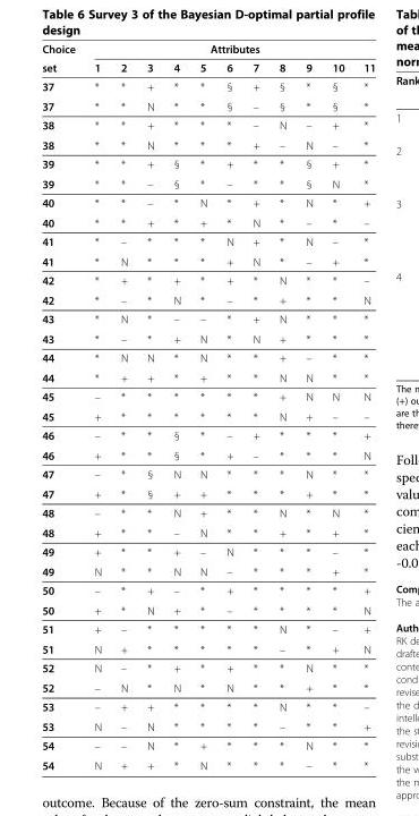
<table><thead><tr><td rowspan="2">Choice set</td><td colspan="11">Attributes</td></tr><tr><td>1</td><td>2</td><td>3</td><td>4</td><td>5</td><td>6</td><td>7</td><td>8</td><td>9</td><td>10</td><td>11</td></tr></thead><tbody><tr><td>37</td><td>*</td><td>*</td><td>+</td><td>*</td><td>*</td><td>§</td><td>+</td><td>§</td><td>*</td><td>§</td><td>*</td></tr><tr><td>37</td><td>*</td><td>*</td><td>N</td><td>*</td><td>*</td><td>§</td><td>–</td><td>§</td><td>*</td><td>§</td><td>*</td></tr><tr><td>38</td><td>*</td><td>*</td><td>+</td><td>*</td><td>*</td><td>*</td><td>–</td><td>N</td><td>–</td><td>+</td><td>*</td></tr><tr><td>38</td><td>*</td><td>*</td><td>N</td><td>*</td><td>*</td><td>*</td><td>+</td><td>–</td><td>N</td><td>–</td><td>*</td></tr><tr><td>39</td><td>*</td><td>*</td><td>+</td><td>§</td><td>*</td><td>+</td><td>*</td><td>*</td><td>§</td><td>+</td><td>*</td></tr><tr><td>39</td><td>*</td><td>*</td><td>–</td><td>§</td><td>*</td><td>–</td><td>*</td><td>*</td><td>§</td><td>N</td><td>*</td></tr><tr><td>40</td><td>*</td><td>*</td><td>–</td><td>*</td><td>N</td><td>*</td><td>+</td><td>*</td><td>N</td><td>*</td><td>+</td></tr><tr><td>40</td><td>*</td><td>*</td><td>+</td><td>*</td><td>+</td><td>*</td><td>N</td><td>*</td><td>–</td><td>*</td><td>–</td></tr><tr><td>41</td><td>*</td><td>–</td><td>*</td><td>*</td><td>*</td><td>N</td><td>+</td><td>*</td><td>N</td><td>–</td><td>*</td></tr><tr><td>41</td><td>*</td><td>N</td><td>*</td><td>*</td><td>*</td><td>+</td><td>N</td><td>*</td><td>–</td><td>+</td><td>*</td></tr><tr><td>42</td><td>*</td><td>+</td><td>*</td><td>+</td><td>*</td><td>+</td><td>*</td><td>N</td><td>*</td><td>*</td><td>–</td></tr><tr><td>42</td><td>*</td><td>–</td><td>*</td><td>N</td><td>*</td><td>–</td><td>*</td><td>+</td><td>*</td><td>*</td><td>N</td></tr><tr><td>43</td><td>*</td><td>N</td><td>*</td><td>–</td><td>–</td><td>*</td><td>+</td><td>N</td><td>*</td><td>*</td><td>*</td></tr><tr><td>43</td><td>*</td><td>–</td><td>*</td><td>+</td><td>N</td><td>*</td><td>N</td><td>+</td><td>*</td><td>*</td><td>*</td></tr><tr><td>44</td><td>*</td><td>N</td><td>N</td><td>*</td><td>N</td><td>*</td><td>*</td><td>+</td><td>–</td><td>*</td><td>*</td></tr><tr><td>44</td><td>*</td><td>+</td><td>+</td><td>*</td><td>+</td><td>*</td><td>*</td><td>N</td><td>N</td><td>*</td><td>*</td></tr><tr><td>45</td><td>–</td><td>*</td><td>*</td><td>*</td><td>*</td><td>*</td><td>*</td><td>+</td><td>N</td><td>N</td><td>N</td></tr><tr><td>45</td><td>+</td><td>*</td><td>*</td><td>*</td><td>*</td><td>*</td><td>*</td><td>N</td><td>+</td><td>–</td><td>–</td></tr><tr><td>46</td><td>–</td><td>*</td><td>*</td><td>§</td><td>*</td><td>–</td><td>+</td><td>*</td><td>*</td><td>*</td><td>+</td></tr><tr><td>46</td><td>+</td><td>*</td><td>*</td><td>§</td><td>*</td><td>+</td><td>–</td><td>*</td><td>*</td><td>*</td><td>N</td></tr><tr><td>47</td><td>–</td><td>*</td><td>§</td><td>N</td><td>N</td><td>*</td><td>*</td><td>*</td><td>N</td><td>*</td><td>*</td></tr><tr><td>47</td><td>+</td><td>*</td><td>§</td><td>+</td><td>+</td><td>*</td><td>*</td><td>*</td><td>+</td><td>*</td><td>*</td></tr><tr><td>48</td><td>–</td><td>*</td><td>*</td><td>N</td><td>+</td><td>*</td><td>*</td><td>N</td><td>*</td><td>N</td><td>*</td></tr><tr><td>48</td><td>+</td><td>*</td><td>*</td><td>–</td><td>N</td><td>*</td><td>*</td><td>+</td><td>*</td><td>+</td><td>*</td></tr><tr><td>49</td><td>+</td><td>*</td><td>*</td><td>+</td><td>–</td><td>N</td><td>*</td><td>*</td><td>*</td><td>–</td><td>*</td></tr><tr><td>49</td><td>N</td><td>*</td><td>*</td><td>N</td><td>N</td><td>–</td><td>*</td><td>*</td><td>*</td><td>+</td><td>*</td></tr><tr><td>50</td><td>–</td><td>*</td><td>+</td><td>–</td><td>*</td><td>+</td><td>*</td><td>*</td><td>*</td><td>*</td><td>+</td></tr><tr><td>50</td><td>+</td><td>*</td><td>N</td><td>+</td><td>*</td><td>–</td><td>*</td><td>*</td><td>*</td><td>*</td><td>N</td></tr><tr><td>51</td><td>+</td><td>–</td><td>*</td><td>*</td><td>*</td><td>*</td><td>*</td><td>N</td><td>*</td><td>–</td><td>+</td></tr><tr><td>51</td><td>N</td><td>+</td><td>*</td><td>*</td><td>*</td><td>*</td><td>*</td><td>–</td><td>*</td><td>+</td><td>N</td></tr><tr><td>52</td><td>N</td><td>–</td><td>*</td><td>+</td><td>*</td><td>+</td><td>*</td><td>*</td><td>N</td><td>*</td><td>*</td></tr><tr><td>52</td><td>–</td><td>N</td><td>*</td><td>N</td><td>*</td><td>N</td><td>*</td><td>*</td><td>+</td><td>*</td><td>*</td></tr><tr><td>53</td><td>–</td><td>+</td><td>+</td><td>*</td><td>*</td><td>*</td><td>*</td><td>N</td><td>*</td><td>*</td><td>–</td></tr><tr><td>53</td><td>N</td><td>–</td><td>N</td><td>*</td><td>*</td><td>*</td><td>*</td><td>–</td><td>*</td><td>*</td><td>+</td></tr><tr><td>54</td><td>–</td><td>–</td><td>N</td><td>*</td><td>+</td><td>*</td><td>*</td><td>*</td><td>N</td><td>*</td><td>*</td></tr><tr><td>54</td><td>N</td><td>+</td><td>+</td><td>*</td><td>N</td><td>*</td><td>*</td><td>*</td><td>–</td><td>*</td><td>*</td></tr></tbody></table>